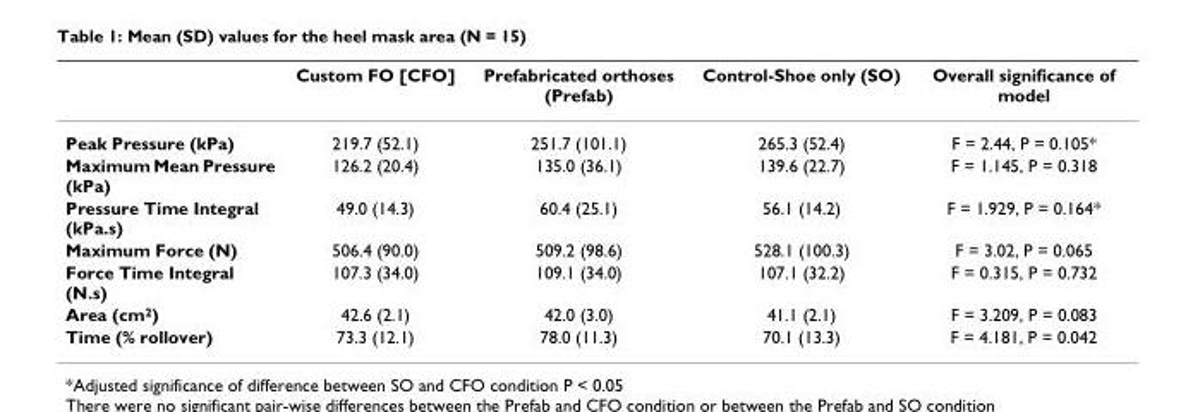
<table><thead><tr><td></td><td>Custom FO [CFO]</td><td>Prefabricated orthoses (Prefab)</td><td>Control-Shoe only (SO)</td><td>Overall significance of model</td></tr></thead><tbody><tr><td>Peak Pressure (kPa)</td><td>219.7 (52.1)</td><td>251.7 (101.1)</td><td>265.3 (52.4)</td><td>F = 2.44, P = 0.105*</td></tr><tr><td>Maximum Mean Pressure (kPa)</td><td>126.2 (20.4)</td><td>135.0 (36.1)</td><td>139.6 (22.7)</td><td>F = 1.145, P = 0.318</td></tr><tr><td>Pressure Time Integral (kPa.s)</td><td>49.0 (14.3)</td><td>60.4 (25.1)</td><td>56.1 (14.2)</td><td>F = 1.929, P = 0.164*</td></tr><tr><td>Maximum Force (N)</td><td>506.4 (90.0)</td><td>509.2 (98.6)</td><td>528.1 (100.3)</td><td>F = 3.02, P = 0.065</td></tr><tr><td>Force Time Integral (N.s)</td><td>107.3 (34.0)</td><td>109.1 (34.0)</td><td>107.1 (32.2)</td><td>F = 0.315, P = 0.732</td></tr><tr><td>Area (cm<sup>2</sup>)</td><td>42.6 (2.1)</td><td>42.0 (3.0)</td><td>41.1 (2.1)</td><td>F = 3.209, P = 0.083</td></tr><tr><td>Time (% rollover)</td><td>73.3 (12.1)</td><td>78.0 (11.3)</td><td>70.1 (13.3)</td><td>F = 4.181, P = 0.042</td></tr></tbody></table>